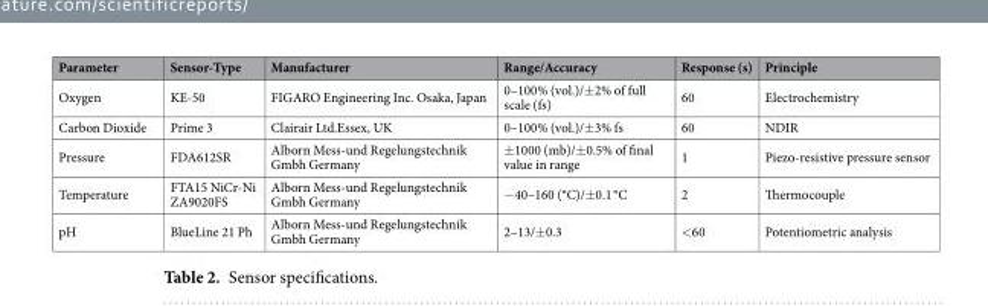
<table><thead><tr><td>Parameter</td><td>Sensor-Type</td><td>Manufacturer</td><td>Range/Accuracy</td><td>Response (s)</td><td>Principle</td></tr></thead><tbody><tr><td>Oxygen</td><td>KE-50</td><td>FIGARO Engineering Inc. Osaka, Japan</td><td>0–100% (vol.)/±2% of full scale (fs)</td><td>60</td><td>Electrochemistry</td></tr><tr><td>Carbon Dioxide</td><td>Prime 3</td><td>Clairair Ltd.Essex, UK</td><td>0–100% (vol.)/±3% fs</td><td>60</td><td>NDIR</td></tr><tr><td>Pressure</td><td>FDA612SR</td><td>Alborn Mess-und Regelungstechnik Gmbh Germany</td><td>±1000 (mb)/±0.5% of final value in range</td><td>1</td><td>Piezo-resistive pressure sensor</td></tr><tr><td>Temperature</td><td>FTA15 NiCr-Ni ZA9020FS</td><td>Alborn Mess-und Regelungstechnik Gmbh Germany</td><td>−40–160 (°C)/±0.1 °C</td><td>2</td><td>Thermocouple</td></tr><tr><td>pH</td><td>BlueLine 21 Ph</td><td>Alborn Mess-und Regelungstechnik Gmbh Germany</td><td>2–13/±0.3</td><td>&lt;60</td><td>Potentiometric analysis</td></tr></tbody></table>